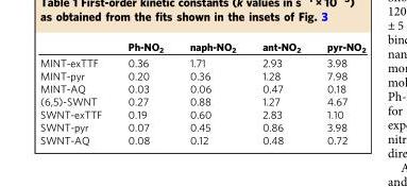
<table><thead><tr><td></td><td>Ph-NO<sub>2</sub></td><td>naph-NO<sub>2</sub></td><td>ant-NO<sub>2</sub></td><td>pyr-NO<sub>2</sub></td></tr></thead><tbody><tr><td>MINT-exTTF</td><td>0.36</td><td>1.71</td><td>2.93</td><td>3.98</td></tr><tr><td>MINT-pyr</td><td>0.20</td><td>0.36</td><td>1.28</td><td>7.98</td></tr><tr><td>MINT-AQ</td><td>0.03</td><td>0.06</td><td>0.47</td><td>0.18</td></tr><tr><td>(6,5)-SWNT</td><td>0.27</td><td>0.88</td><td>1.27</td><td>4.67</td></tr><tr><td>SWNT-exTTF</td><td>0.19</td><td>0.60</td><td>2.83</td><td>1.10</td></tr><tr><td>SWNT-pyr</td><td>0.07</td><td>0.45</td><td>0.86</td><td>3.98</td></tr><tr><td>SWNT-AQ</td><td>0.08</td><td>0.12</td><td>0.48</td><td>0.72</td></tr></tbody></table>